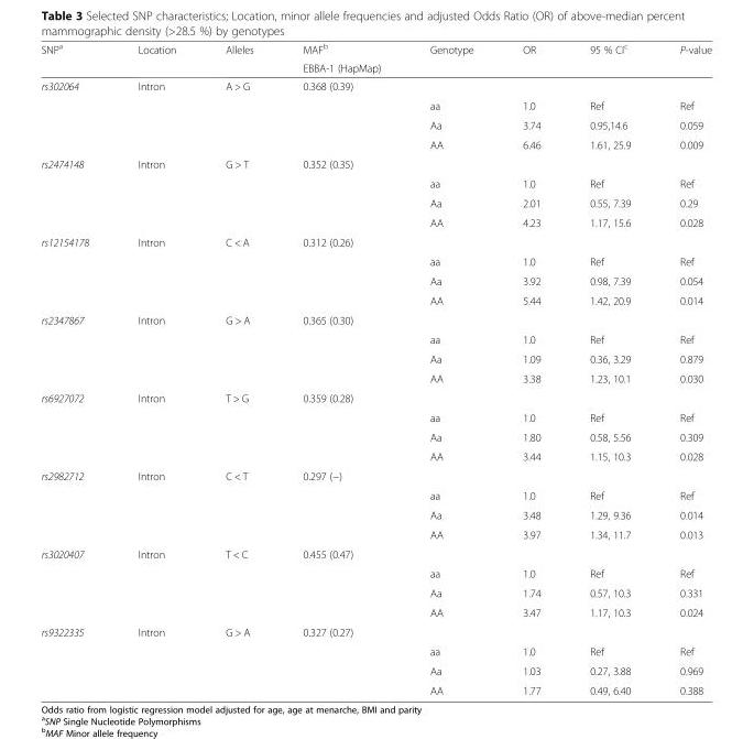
<table><thead><tr><td rowspan="2">SNP<sup>a</sup></td><td rowspan="2">Location</td><td rowspan="2">Alleles</td><td rowspan="2">MAF<sup>b</sup> EBBA-1 (HapMap)</td><td rowspan="2">Genotype</td><td rowspan="2">OR</td><td rowspan="2">95 % CI<sup>c</sup></td><td rowspan="2">P-value</td></tr><tr></tr></thead><tbody><tr><td rowspan="4">rs302064</td><td rowspan="4">Intron</td><td rowspan="4">A &gt; G</td><td>0.368 (0.39)</td><td></td><td></td><td></td><td></td></tr><tr><td></td><td>aa</td><td>1.0</td><td>Ref</td><td>Ref</td></tr><tr><td></td><td>Aa</td><td>3.74</td><td>0.95,14.6</td><td>0.059</td></tr><tr><td></td><td>AA</td><td>6.46</td><td>1.61, 25.9</td><td>0.009</td></tr><tr><td rowspan="4">rs2474148</td><td rowspan="4">Intron</td><td rowspan="4">G &gt; T</td><td>0.352 (0.35)</td><td></td><td></td><td></td><td></td></tr><tr><td></td><td>aa</td><td>1.0</td><td>Ref</td><td>Ref</td></tr><tr><td></td><td>Aa</td><td>2.01</td><td>0.55, 7.39</td><td>0.29</td></tr><tr><td></td><td>AA</td><td>4.23</td><td>1.17, 15.6</td><td>0.028</td></tr><tr><td rowspan="4">rs12154178</td><td rowspan="4">Intron</td><td rowspan="4">C &lt; A</td><td>0.312 (0.26)</td><td></td><td></td><td></td><td></td></tr><tr><td></td><td>aa</td><td>1.0</td><td>Ref</td><td>Ref</td></tr><tr><td></td><td>Aa</td><td>3.92</td><td>0.98, 7.39</td><td>0.054</td></tr><tr><td></td><td>AA</td><td>5.44</td><td>1.42, 20.9</td><td>0.014</td></tr><tr><td rowspan="4">rs2347867</td><td rowspan="4">Intron</td><td rowspan="4">G &gt; A</td><td>0.365 (0.30)</td><td></td><td></td><td></td><td></td></tr><tr><td></td><td>aa</td><td>1.0</td><td>Ref</td><td>Ref</td></tr><tr><td></td><td>Aa</td><td>1.09</td><td>0.36, 3.29</td><td>0.879</td></tr><tr><td></td><td>AA</td><td>3.38</td><td>1.23, 10.1</td><td>0.030</td></tr><tr><td rowspan="4">rs6927072</td><td rowspan="4">Intron</td><td rowspan="4">T &gt; G</td><td>0.359 (0.28)</td><td></td><td></td><td></td><td></td></tr><tr><td></td><td>aa</td><td>1.0</td><td>Ref</td><td>Ref</td></tr><tr><td></td><td>Aa</td><td>1.80</td><td>0.58, 5.56</td><td>0.309</td></tr><tr><td></td><td>AA</td><td>3.44</td><td>1.15, 10.3</td><td>0.028</td></tr><tr><td rowspan="4">rs2982712</td><td rowspan="4">Intron</td><td rowspan="4">C &lt; T</td><td>0.297 (−)</td><td></td><td></td><td></td><td></td></tr><tr><td></td><td>aa</td><td>1.0</td><td>Ref</td><td>Ref</td></tr><tr><td></td><td>Aa</td><td>3.48</td><td>1.29, 9.36</td><td>0.014</td></tr><tr><td></td><td>AA</td><td>3.97</td><td>1.34, 11.7</td><td>0.013</td></tr><tr><td rowspan="4">rs3020407</td><td rowspan="4">Intron</td><td rowspan="4">T &lt; C</td><td>0.455 (0.47)</td><td></td><td></td><td></td><td></td></tr><tr><td></td><td>aa</td><td>1.0</td><td>Ref</td><td>Ref</td></tr><tr><td></td><td>Aa</td><td>1.74</td><td>0.57, 10.3</td><td>0.331</td></tr><tr><td></td><td>AA</td><td>3.47</td><td>1.17, 10.3</td><td>0.024</td></tr><tr><td rowspan="4">rs9322335</td><td rowspan="4">Intron</td><td rowspan="4">G &gt; A</td><td>0.327 (0.27)</td><td></td><td></td><td></td><td></td></tr><tr><td></td><td>aa</td><td>1.0</td><td>Ref</td><td>Ref</td></tr><tr><td></td><td>Aa</td><td>1.03</td><td>0.27, 3.88</td><td>0.969</td></tr><tr><td></td><td>AA</td><td>1.77</td><td>0.49, 6.40</td><td>0.388</td></tr></tbody></table>